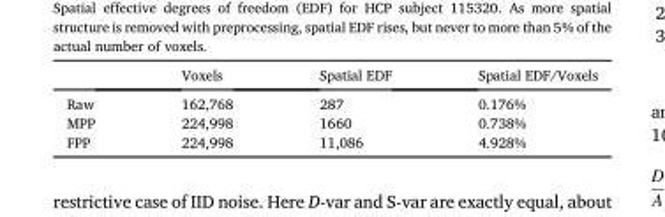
<table><thead><tr><td></td><td>Voxels</td><td>Spatial EDF</td><td>Spatial EDF/Voxels</td></tr></thead><tbody><tr><td>Raw</td><td>162,768</td><td>287</td><td>0.176%</td></tr><tr><td>MPP</td><td>224,998</td><td>1660</td><td>0.738%</td></tr><tr><td>FPP</td><td>224,998</td><td>11,086</td><td>4.928%</td></tr></tbody></table>